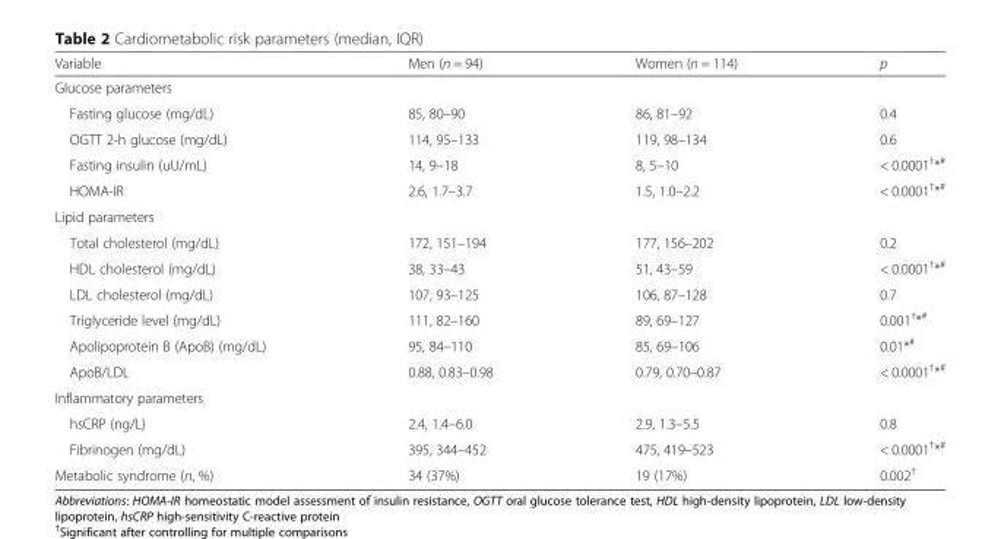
<table><thead><tr><td>Variable</td><td>Men (n = 94)</td><td>Women (n = 114)</td><td>p</td></tr></thead><tbody><tr><td colspan="4">Glucose parameters</td></tr><tr><td>Fasting glucose (mg/dL)</td><td>85, 80–90</td><td>86, 81–92</td><td>0.4</td></tr><tr><td>OGTT 2-h glucose (mg/dL)</td><td>114, 95–133</td><td>119, 98–134</td><td>0.6</td></tr><tr><td>Fasting insulin (uU/mL)</td><td>14, 9–18</td><td>8, 5–10</td><td>&lt; 0.0001<sup>†</sup>*<sup>#</sup></td></tr><tr><td>HOMA-IR</td><td>2.6, 1.7–3.7</td><td>1.5, 1.0–2.2</td><td>&lt; 0.0001<sup>†</sup>*<sup>#</sup></td></tr><tr><td colspan="4">Lipid parameters</td></tr><tr><td>Total cholesterol (mg/dL)</td><td>172, 151–194</td><td>177, 156–202</td><td>0.2</td></tr><tr><td>HDL cholesterol (mg/dL)</td><td>38, 33–43</td><td>51, 43–59</td><td>&lt; 0.0001<sup>†</sup>*<sup>#</sup></td></tr><tr><td>LDL cholesterol (mg/dL)</td><td>107, 93–125</td><td>106, 87–128</td><td>0.7</td></tr><tr><td>Triglyceride level (mg/dL)</td><td>111, 82–160</td><td>89, 69–127</td><td>0.001<sup>†</sup>*<sup>#</sup></td></tr><tr><td>Apolipoprotein B (ApoB) (mg/dL)</td><td>95, 84–110</td><td>85, 69–106</td><td>0.01*<sup>#</sup></td></tr><tr><td>ApoB/LDL</td><td>0.88, 0.83–0.98</td><td>0.79, 0.70–0.87</td><td>&lt; 0.0001<sup>†</sup>*<sup>#</sup></td></tr><tr><td colspan="4">Inflammatory parameters</td></tr><tr><td>hsCRP (ng/L)</td><td>2.4, 1.4–6.0</td><td>2.9, 1.3–5.5</td><td>0.8</td></tr><tr><td>Fibrinogen (mg/dL)</td><td>395, 344–452</td><td>475, 419–523</td><td>&lt; 0.0001<sup>†</sup>*<sup>#</sup></td></tr><tr><td>Metabolic syndrome (n, %)</td><td>34 (37%)</td><td>19 (17%)</td><td>0.002<sup>†</sup></td></tr></tbody></table>